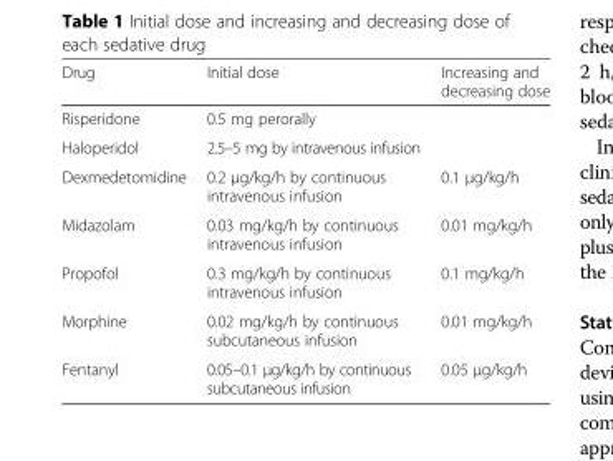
<table><thead><tr><td>Drug</td><td>Initial dose</td><td>Increasing and decreasing dose</td></tr></thead><tbody><tr><td>Risperidone</td><td>0.5 mg perorally</td><td></td></tr><tr><td>Haloperidol</td><td>2.5–5 mg by intravenous infusion</td><td></td></tr><tr><td>Dexmedetomidine</td><td>0.2 μg/kg/h by continuous intravenous infusion</td><td>0.1 μg/kg/h</td></tr><tr><td>Midazolam</td><td>0.03 mg/kg/h by continuous intravenous infusion</td><td>0.01 mg/kg/h</td></tr><tr><td>Propofol</td><td>0.3 mg/kg/h by continuous intravenous infusion</td><td>0.1 mg/kg/h</td></tr><tr><td>Morphine</td><td>0.02 mg/kg/h by continuous subcutaneous infusion</td><td>0.01 mg/kg/h</td></tr><tr><td>Fentanyl</td><td>0.05–0.1 μg/kg/h by continuous subcutaneous infusion</td><td>0.05 μg/kg/h</td></tr></tbody></table>